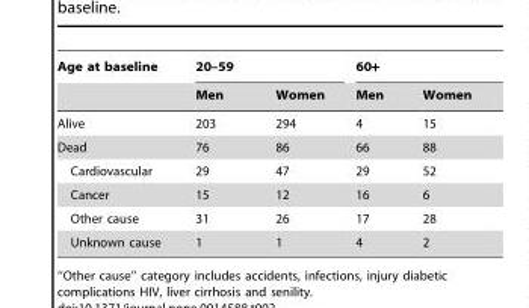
<table><thead><tr><td rowspan="2">Age at baseline</td><td colspan="2">20–59</td><td colspan="2">60+</td></tr><tr><td>Men</td><td>Women</td><td>Men</td><td>Women</td></tr></thead><tbody><tr><td>Alive</td><td>203</td><td>294</td><td>4</td><td>15</td></tr><tr><td>Dead</td><td>76</td><td>86</td><td>66</td><td>88</td></tr><tr><td>Cardiovascular</td><td>29</td><td>47</td><td>29</td><td>52</td></tr><tr><td>Cancer</td><td>15</td><td>12</td><td>16</td><td>6</td></tr><tr><td>Other cause</td><td>31</td><td>26</td><td>17</td><td>28</td></tr><tr><td>Unknown cause</td><td>1</td><td>1</td><td>4</td><td>2</td></tr></tbody></table>